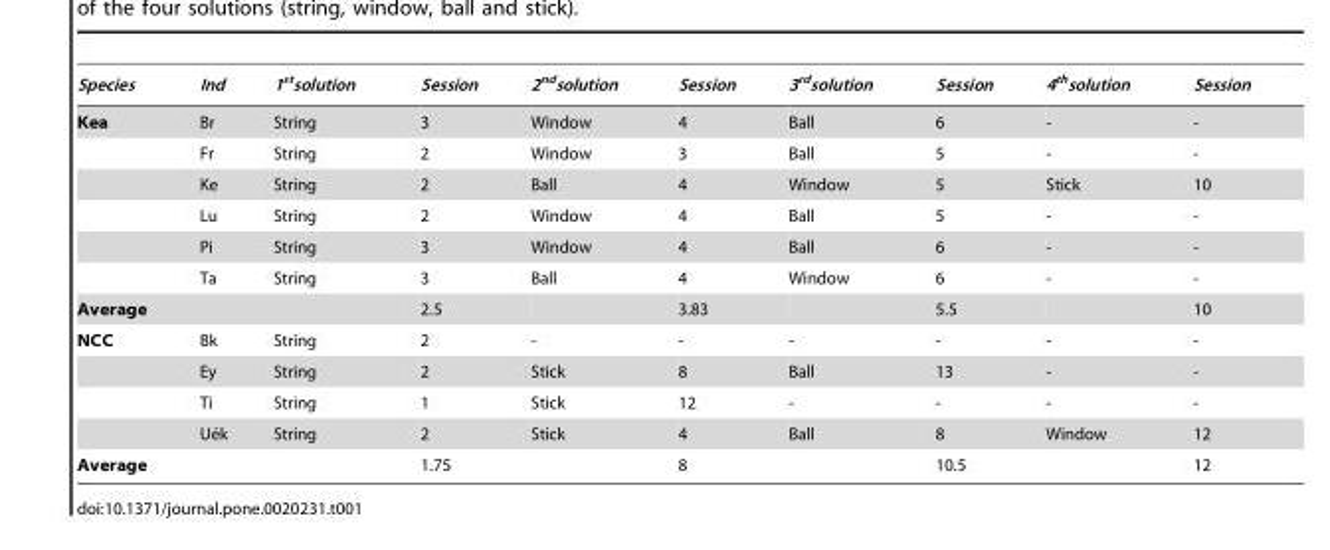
<table><thead><tr><td>Species</td><td>Ind</td><td>1<sup>st</sup>solution</td><td>Session</td><td>2<sup>nd</sup>solution</td><td>Session</td><td>3<sup>rd</sup>solution</td><td>Session</td><td>4<sup>th</sup>solution</td><td>Session</td></tr></thead><tbody><tr><td rowspan="6">Kea</td><td>Br</td><td>String</td><td>3</td><td>Window</td><td>4</td><td>Ball</td><td>6</td><td>-</td><td>-</td></tr><tr><td>Fr</td><td>String</td><td>2</td><td>Window</td><td>3</td><td>Ball</td><td>5</td><td>-</td><td>-</td></tr><tr><td>Ke</td><td>String</td><td>2</td><td>Ball</td><td>4</td><td>Window</td><td>5</td><td>Stick</td><td>10</td></tr><tr><td>Lu</td><td>String</td><td>2</td><td>Window</td><td>4</td><td>Ball</td><td>5</td><td>-</td><td>-</td></tr><tr><td>Pi</td><td>String</td><td>3</td><td>Window</td><td>4</td><td>Ball</td><td>6</td><td>-</td><td>-</td></tr><tr><td>Ta</td><td>String</td><td>3</td><td>Ball</td><td>4</td><td>Window</td><td>6</td><td>-</td><td>-</td></tr><tr><td>Average</td><td></td><td></td><td>2.5</td><td></td><td>3.83</td><td></td><td>5.5</td><td></td><td>10</td></tr><tr><td rowspan="4">NCC</td><td>Bk</td><td>String</td><td>2</td><td>-</td><td>-</td><td>-</td><td>-</td><td>-</td><td>-</td></tr><tr><td>Ey</td><td>String</td><td>2</td><td>Stick</td><td>8</td><td>Ball</td><td>13</td><td>-</td><td>-</td></tr><tr><td>Ti</td><td>String</td><td>1</td><td>Stick</td><td>12</td><td>-</td><td>-</td><td>-</td><td>-</td></tr><tr><td>Ue´k</td><td>String</td><td>2</td><td>Stick</td><td>4</td><td>Ball</td><td>8</td><td>Window</td><td>12</td></tr><tr><td>Average</td><td></td><td></td><td>1.75</td><td></td><td>8</td><td></td><td>10.5</td><td></td><td>12</td></tr></tbody></table>